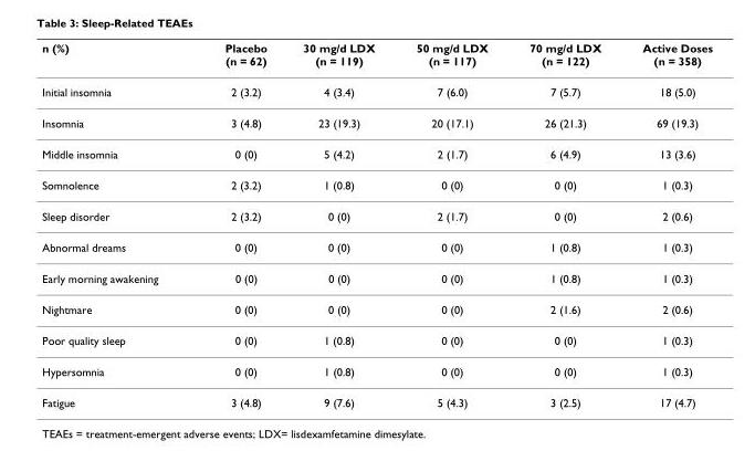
<table><thead><tr><td>n (%)</td><td>Placebo (n = 62)</td><td>30 mg/d LDX (n = 119)</td><td>50 mg/d LDX (n = 117)</td><td>70 mg/d LDX (n = 122)</td><td>Active Doses (n = 358)</td></tr></thead><tbody><tr><td>Initial insomnia</td><td>2 (3.2)</td><td>4 (3.4)</td><td>7 (6.0)</td><td>7 (5.7)</td><td>18 (5.0)</td></tr><tr><td>Insomnia</td><td>3 (4.8)</td><td>23 (19.3)</td><td>20 (17.1)</td><td>26 (21.3)</td><td>69 (19.3)</td></tr><tr><td>Middle insomnia</td><td>0 (0)</td><td>5 (4.2)</td><td>2 (1.7)</td><td>6 (4.9)</td><td>13 (3.6)</td></tr><tr><td>Somnolence</td><td>2 (3.2)</td><td>1 (0.8)</td><td>0 (0)</td><td>0 (0)</td><td>1 (0.3)</td></tr><tr><td>Sleep disorder</td><td>2 (3.2)</td><td>0 (0)</td><td>2 (1.7)</td><td>0 (0)</td><td>2 (0.6)</td></tr><tr><td>Abnormal dreams</td><td>0 (0)</td><td>0 (0)</td><td>0 (0)</td><td>1 (0.8)</td><td>1 (0.3)</td></tr><tr><td>Early morning awakening</td><td>0 (0)</td><td>0 (0)</td><td>0 (0)</td><td>1 (0.8)</td><td>1 (0.3)</td></tr><tr><td>Nightmare</td><td>0 (0)</td><td>0 (0)</td><td>0 (0)</td><td>2 (1.6)</td><td>2 (0.6)</td></tr><tr><td>Poor quality sleep</td><td>0 (0)</td><td>1 (0.8)</td><td>0 (0)</td><td>0 (0)</td><td>1 (0.3)</td></tr><tr><td>Hypersomnia</td><td>0 (0)</td><td>1 (0.8)</td><td>0 (0)</td><td>0 (0)</td><td>1 (0.3)</td></tr><tr><td>Fatigue</td><td>3 (4.8)</td><td>9 (7.6)</td><td>5 (4.3)</td><td>3 (2.5)</td><td>17 (4.7)</td></tr></tbody></table>